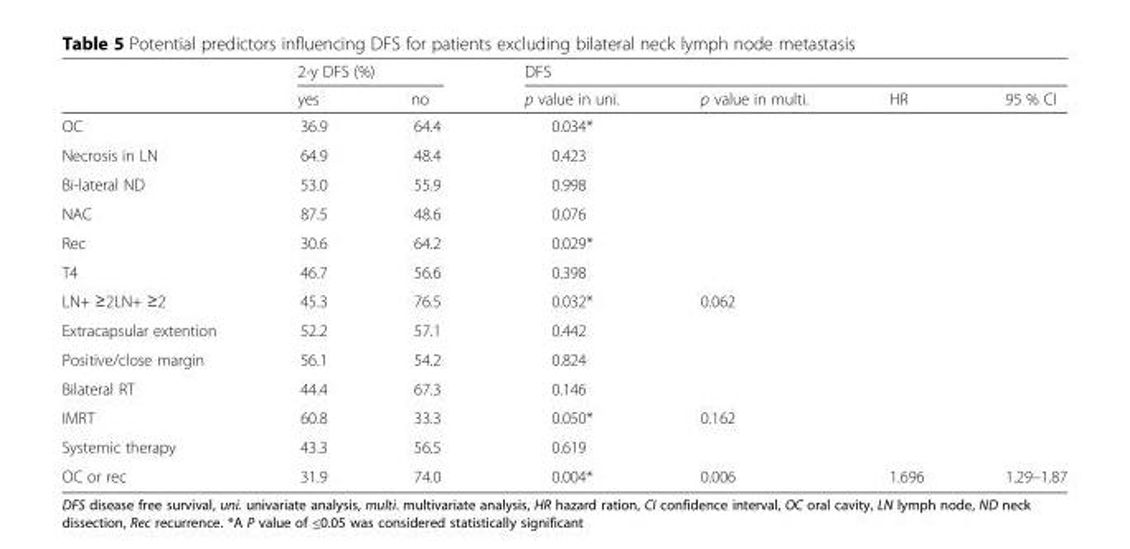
<table><thead><tr><td rowspan="2"></td><td colspan="2">2-y DFS (%)</td><td colspan="4">DFS</td></tr><tr><td>yes</td><td>no</td><td>p value in uni.</td><td>p value in multi.</td><td>HR</td><td>95 % CI</td></tr></thead><tbody><tr><td>OC</td><td>36.9</td><td>64.4</td><td>0.034*</td><td></td><td></td><td></td></tr><tr><td>Necrosis in LN</td><td>64.9</td><td>48.4</td><td>0.423</td><td></td><td></td><td></td></tr><tr><td>Bi-lateral ND</td><td>53.0</td><td>55.9</td><td>0.998</td><td></td><td></td><td></td></tr><tr><td>NAC</td><td>87.5</td><td>48.6</td><td>0.076</td><td></td><td></td><td></td></tr><tr><td>Rec</td><td>30.6</td><td>64.2</td><td>0.029*</td><td></td><td></td><td></td></tr><tr><td>T4</td><td>46.7</td><td>56.6</td><td>0.398</td><td></td><td></td><td></td></tr><tr><td>LN+ ≥2LN+ ≥2</td><td>45.3</td><td>76.5</td><td>0.032*</td><td>0.062</td><td></td><td></td></tr><tr><td>Extracapsular extention</td><td>52.2</td><td>57.1</td><td>0.442</td><td></td><td></td><td></td></tr><tr><td>Positive/close margin</td><td>56.1</td><td>54.2</td><td>0.824</td><td></td><td></td><td></td></tr><tr><td>Bilateral RT</td><td>44.4</td><td>67.3</td><td>0.146</td><td></td><td></td><td></td></tr><tr><td>IMRT</td><td>60.8</td><td>33.3</td><td>0.050*</td><td>0.162</td><td></td><td></td></tr><tr><td>Systemic therapy</td><td>43.3</td><td>56.5</td><td>0.619</td><td></td><td></td><td></td></tr><tr><td>OC or rec</td><td>31.9</td><td>74.0</td><td>0.004*</td><td>0.006</td><td>1.696</td><td>1.29–1.87</td></tr></tbody></table>